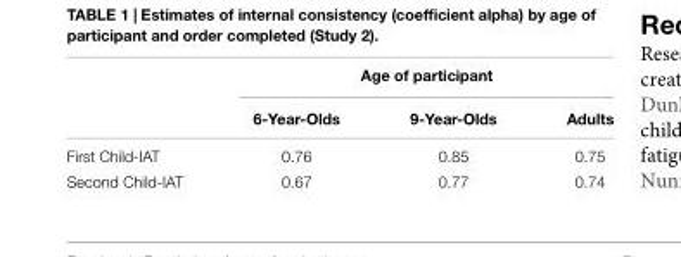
<table><thead><tr><td rowspan="2"></td><td colspan="3">Age of participant</td></tr><tr><td>6-Year-Olds</td><td>9-Year-Olds</td><td>Adults</td></tr></thead><tbody><tr><td>First Child-IAT</td><td>0.76</td><td>0.85</td><td>0.75</td></tr><tr><td>Second Child-IAT</td><td>0.67</td><td>0.77</td><td>0.74</td></tr></tbody></table>